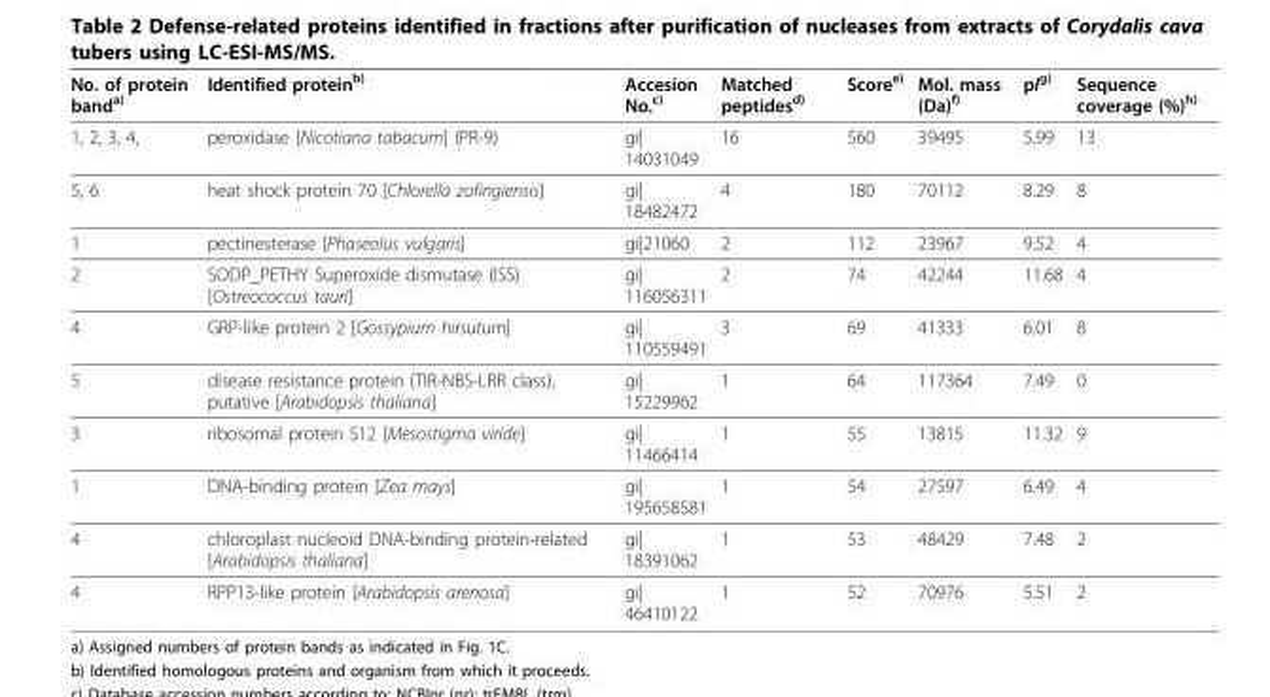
<table><thead><tr><td>No. of protein band<sup>a)</sup></td><td>Identified protein<sup>b)</sup></td><td>Accesion No.<sup>c)</sup></td><td>Matched peptides<sup>d)</sup></td><td>Score<sup>e)</sup></td><td>Mol. mass (Da)<sup>f)</sup></td><td>pI<sup>g)</sup></td><td>Sequence coverage (%)<sup>h)</sup></td></tr></thead><tbody><tr><td>1, 2, 3, 4,</td><td>peroxidase [Nicotiana tabacum] (PR-9)</td><td>gi| 14031049</td><td>16</td><td>560</td><td>39495</td><td>5.99</td><td>13</td></tr><tr><td>5, 6</td><td>heat shock protein 70 [Chlorella zofingiensis]</td><td>gi| 18482472</td><td>4</td><td>180</td><td>70112</td><td>8.29</td><td>8</td></tr><tr><td>1</td><td>pectinesterase [Phaseolus vulgaris]</td><td>gi|21060</td><td>2</td><td>112</td><td>23967</td><td>9.52</td><td>4</td></tr><tr><td>2</td><td>SODP_PETHY Superoxide dismutase (ISS) [Ostreococcus tauri]</td><td>gi| 116056311</td><td>2</td><td>74</td><td>42244</td><td>11.68</td><td>4</td></tr><tr><td>4</td><td>GRP-like protein 2 [Gossypium hirsutum]</td><td>gi| 110559491</td><td>3</td><td>69</td><td>41333</td><td>6.01</td><td>8</td></tr><tr><td>5</td><td>disease resistance protein (TIR-NBS-LRR class), putative [Arabidopsis thaliana]</td><td>gi| 15229962</td><td>1</td><td>64</td><td>117364</td><td>7.49</td><td>0</td></tr><tr><td>3</td><td>ribosomal protein S12 [Mesostigma viride]</td><td>gi| 11466414</td><td>1</td><td>55</td><td>13815</td><td>11.32</td><td>9</td></tr><tr><td>1</td><td>DNA-binding protein [Zea mays]</td><td>gi| 195658581</td><td>1</td><td>54</td><td>27597</td><td>6.49</td><td>4</td></tr><tr><td>4</td><td>chloroplast nucleoid DNA-binding protein-related [Arabidopsis thaliana]</td><td>gi| 18391062</td><td>1</td><td>53</td><td>48429</td><td>7.48</td><td>2</td></tr><tr><td>4</td><td>RPP13-like protein [Arabidopsis arenosa]</td><td>gi| 46410122</td><td>1</td><td>52</td><td>70976</td><td>5.51</td><td>2</td></tr></tbody></table>